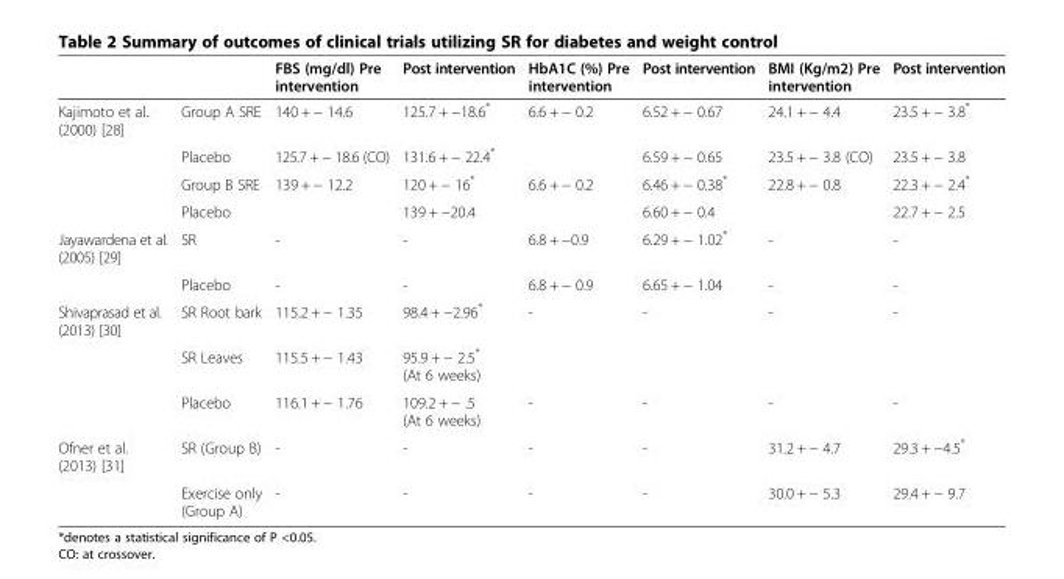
<table><thead><tr><td></td><td></td><td>FBS (mg/dl) Pre intervention</td><td>Post intervention</td><td>HbA1C (%) Pre intervention</td><td>Post intervention</td><td>BMI (Kg/m2) Pre intervention</td><td>Post intervention</td></tr></thead><tbody><tr><td rowspan="4">Kajimoto et al. (2000) [28]</td><td>Group A SRE</td><td>140 + − 14.6</td><td>125.7 + −18.6*</td><td rowspan="2">6.6 + − 0.2</td><td>6.52 + − 0.67</td><td>24.1 + − 4.4</td><td>23.5 + − 3.8*</td></tr><tr><td>Placebo</td><td>125.7 + − 18.6 (CO)</td><td>131.6 + − 22.4*</td><td>6.59 + − 0.65</td><td>23.5 + − 3.8 (CO)</td><td>23.5 + − 3.8</td></tr><tr><td>Group B SRE</td><td>139 + − 12.2</td><td>120 + − 16*</td><td rowspan="2">6.6 + − 0.2</td><td>6.46 + − 0.38*</td><td rowspan="2">22.8 + − 0.8</td><td>22.3 + − 2.4*</td></tr><tr><td>Placebo</td><td></td><td>139 + −20.4</td><td>6.60 + − 0.4</td><td>22.7 + − 2.5</td></tr><tr><td rowspan="2">Jayawardena et al. (2005) [29]</td><td>SR</td><td>-</td><td>-</td><td>6.8 + −0.9</td><td>6.29 + − 1.02*</td><td>-</td><td>-</td></tr><tr><td>Placebo</td><td>-</td><td>-</td><td>6.8 + − 0.9</td><td>6.65 + − 1.04</td><td>-</td><td>-</td></tr><tr><td rowspan="3">Shivaprasad et al. (2013) [30]</td><td>SR Root bark</td><td>115.2 + − 1.35</td><td>98.4 + −2.96*</td><td>-</td><td>-</td><td>-</td><td>-</td></tr><tr><td>SR Leaves</td><td>115.5 + − 1.43</td><td>95.9 + − 2.5* (At 6 weeks)</td><td></td><td></td><td></td><td></td></tr><tr><td>Placebo</td><td>116.1 + − 1.76</td><td>109.2 + − .5 (At 6 weeks)</td><td>-</td><td>-</td><td>-</td><td>-</td></tr><tr><td rowspan="2">Ofner et al. (2013) [31]</td><td>SR (Group B)</td><td>-</td><td>-</td><td>-</td><td>-</td><td>31.2 + − 4.7</td><td>29.3 + −4.5*</td></tr><tr><td>Exercise only (Group A)</td><td>-</td><td>-</td><td>-</td><td>-</td><td>30.0 + − 5.3</td><td>29.4 + − 9.7</td></tr></tbody></table>